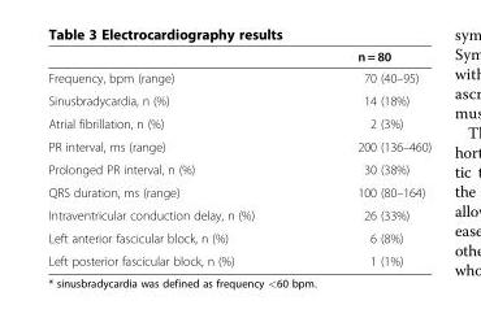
<table><thead><tr><td></td><td>n = 80</td></tr></thead><tbody><tr><td>Frequency, bpm (range)</td><td>70 (40–95)</td></tr><tr><td>Sinusbradycardia, n (%)</td><td>14 (18%)</td></tr><tr><td>Atrial fibrillation, n (%)</td><td>2 (3%)</td></tr><tr><td>PR interval, ms (range)</td><td>200 (136–460)</td></tr><tr><td>Prolonged PR interval, n (%)</td><td>30 (38%)</td></tr><tr><td>QRS duration, ms (range)</td><td>100 (80–164)</td></tr><tr><td>Intraventricular conduction delay, n (%)</td><td>26 (33%)</td></tr><tr><td>Left anterior fascicular block, n (%)</td><td>6 (8%)</td></tr><tr><td>Left posterior fascicular block, n (%)</td><td>1 (1%)</td></tr></tbody></table>